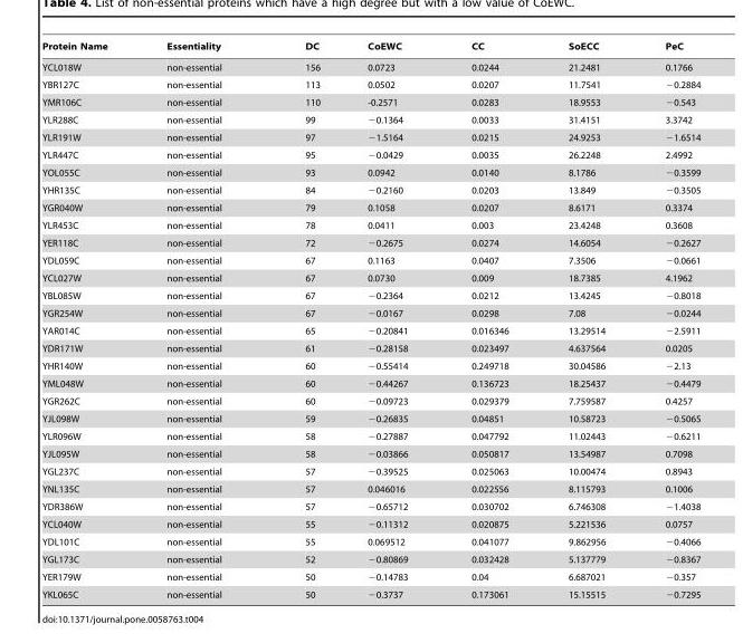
<table><thead><tr><td>Protein Name</td><td>Essentiality</td><td>DC</td><td>CoEWC</td><td>CC</td><td>SoECC</td><td>PeC</td></tr></thead><tbody><tr><td>YCL018W</td><td>non-essential</td><td>156</td><td>0.0723</td><td>0.0244</td><td>21.2481</td><td>0.1766</td></tr><tr><td>YBR127C</td><td>non-essential</td><td>113</td><td>0.0502</td><td>0.0207</td><td>11.7541</td><td>−0.2884</td></tr><tr><td>YMR106C</td><td>non-essential</td><td>110</td><td>-0.2571</td><td>0.0283</td><td>18.9553</td><td>−0.543</td></tr><tr><td>YLR288C</td><td>non-essential</td><td>99</td><td>−0.1364</td><td>0.0033</td><td>31.4151</td><td>3.3742</td></tr><tr><td>YLR191W</td><td>non-essential</td><td>97</td><td>−1.5164</td><td>0.0215</td><td>24.9253</td><td>−1.6514</td></tr><tr><td>YLR447C</td><td>non-essential</td><td>95</td><td>−0.0429</td><td>0.0035</td><td>26.2248</td><td>2.4992</td></tr><tr><td>YOL055C</td><td>non-essential</td><td>93</td><td>0.0942</td><td>0.0140</td><td>8.1786</td><td>−0.3599</td></tr><tr><td>YHR135C</td><td>non-essential</td><td>84</td><td>−0.2160</td><td>0.0203</td><td>13.849</td><td>−0.3505</td></tr><tr><td>YGR040W</td><td>non-essential</td><td>79</td><td>0.1058</td><td>0.0207</td><td>8.6171</td><td>0.3374</td></tr><tr><td>YLR453C</td><td>non-essential</td><td>78</td><td>0.0411</td><td>0.003</td><td>23.4248</td><td>0.3608</td></tr><tr><td>YER118C</td><td>non-essential</td><td>72</td><td>−0.2675</td><td>0.0274</td><td>14.6054</td><td>−0.2627</td></tr><tr><td>YDL059C</td><td>non-essential</td><td>67</td><td>0.1163</td><td>0.0407</td><td>7.3506</td><td>−0.0661</td></tr><tr><td>YCL027W</td><td>non-essential</td><td>67</td><td>0.0730</td><td>0.009</td><td>18.7385</td><td>4.1962</td></tr><tr><td>YBL085W</td><td>non-essential</td><td>67</td><td>−0.2364</td><td>0.0212</td><td>13.4245</td><td>−0.8018</td></tr><tr><td>YGR254W</td><td>non-essential</td><td>67</td><td>−0.0167</td><td>0.0298</td><td>7.08</td><td>−0.0244</td></tr><tr><td>YAR014C</td><td>non-essential</td><td>65</td><td>−0.20841</td><td>0.016346</td><td>13.29514</td><td>−2.5911</td></tr><tr><td>YDR171W</td><td>non-essential</td><td>61</td><td>−0.28158</td><td>0.023497</td><td>4.637564</td><td>0.0205</td></tr><tr><td>YHR140W</td><td>non-essential</td><td>60</td><td>−0.55414</td><td>0.249718</td><td>30.04586</td><td>−2.13</td></tr><tr><td>YML048W</td><td>non-essential</td><td>60</td><td>−0.44267</td><td>0.136723</td><td>18.25437</td><td>−0.4479</td></tr><tr><td>YGR262C</td><td>non-essential</td><td>60</td><td>−0.09723</td><td>0.029379</td><td>7.759587</td><td>0.4257</td></tr><tr><td>YJL098W</td><td>non-essential</td><td>59</td><td>−0.26835</td><td>0.04851</td><td>10.58723</td><td>−0.5065</td></tr><tr><td>YLR096W</td><td>non-essential</td><td>58</td><td>−0.27887</td><td>0.047792</td><td>11.02443</td><td>−0.6211</td></tr><tr><td>YJL095W</td><td>non-essential</td><td>58</td><td>−0.03866</td><td>0.050817</td><td>13.54987</td><td>0.7098</td></tr><tr><td>YGL237C</td><td>non-essential</td><td>57</td><td>−0.39525</td><td>0.025063</td><td>10.00474</td><td>0.8943</td></tr><tr><td>YNL135C</td><td>non-essential</td><td>57</td><td>0.046016</td><td>0.022556</td><td>8.115793</td><td>0.1006</td></tr><tr><td>YDR386W</td><td>non-essential</td><td>57</td><td>−0.65712</td><td>0.030702</td><td>6.746308</td><td>−1.4038</td></tr><tr><td>YCL040W</td><td>non-essential</td><td>55</td><td>−0.11312</td><td>0.020875</td><td>5.221536</td><td>0.0757</td></tr><tr><td>YDL101C</td><td>non-essential</td><td>55</td><td>0.069512</td><td>0.041077</td><td>9.862956</td><td>−0.4066</td></tr><tr><td>YGL173C</td><td>non-essential</td><td>52</td><td>−0.80869</td><td>0.032428</td><td>5.137779</td><td>−0.8367</td></tr><tr><td>YER179W</td><td>non-essential</td><td>50</td><td>−0.14783</td><td>0.04</td><td>6.687021</td><td>−0.357</td></tr><tr><td>YKL065C</td><td>non-essential</td><td>50</td><td>−0.3737</td><td>0.173061</td><td>15.15515</td><td>−0.7295</td></tr></tbody></table>